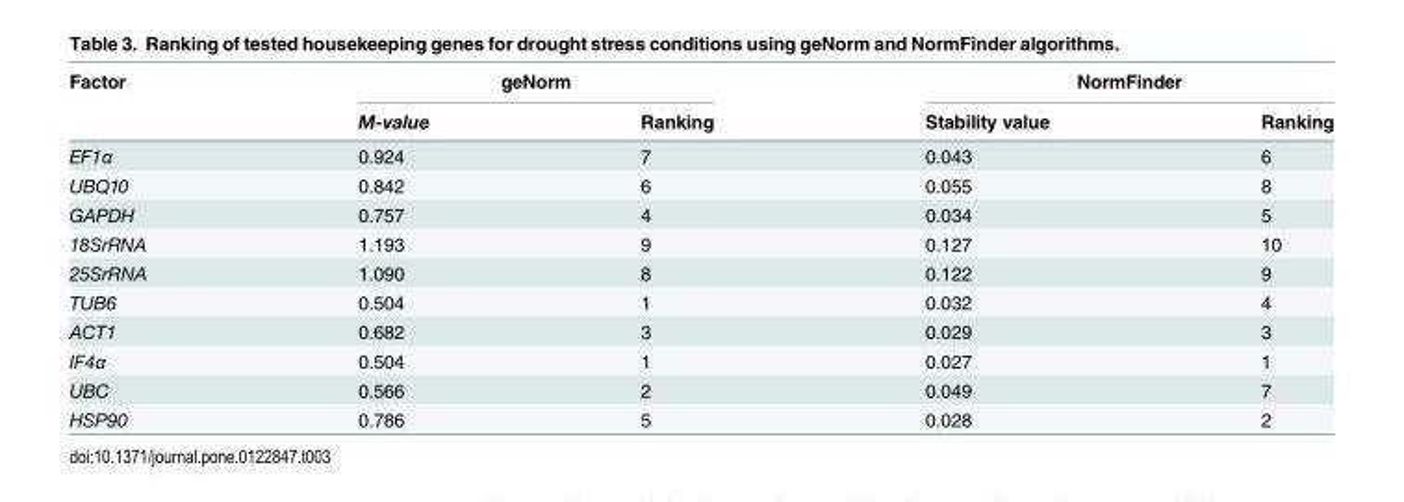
<table><thead><tr><td rowspan="2">Factor</td><td colspan="2">geNorm</td><td colspan="2">NormFinder</td></tr><tr><td>M-value</td><td>Ranking</td><td>Stability value</td><td>Ranking</td></tr></thead><tbody><tr><td>EF1α</td><td>0.924</td><td>7</td><td>0.043</td><td>6</td></tr><tr><td>UBQ10</td><td>0.842</td><td>6</td><td>0.055</td><td>8</td></tr><tr><td>GAPDH</td><td>0.757</td><td>4</td><td>0.034</td><td>5</td></tr><tr><td>18SrRNA</td><td>1.193</td><td>9</td><td>0.127</td><td>10</td></tr><tr><td>25SrRNA</td><td>1.090</td><td>8</td><td>0.122</td><td>9</td></tr><tr><td>TUB6</td><td>0.504</td><td>1</td><td>0.032</td><td>4</td></tr><tr><td>ACT1</td><td>0.682</td><td>3</td><td>0.029</td><td>3</td></tr><tr><td>IF4α</td><td>0.504</td><td>1</td><td>0.027</td><td>1</td></tr><tr><td>UBC</td><td>0.566</td><td>2</td><td>0.049</td><td>7</td></tr><tr><td>HSP90</td><td>0.786</td><td>5</td><td>0.028</td><td>2</td></tr></tbody></table>